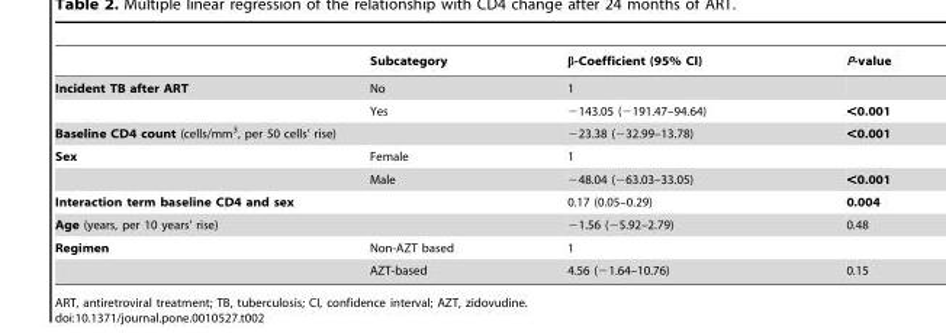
<table><thead><tr><td></td><td>Subcategory</td><td>β-Coefficient (95% CI)</td><td>P-value</td></tr></thead><tbody><tr><td rowspan="2">Incident TB after ART</td><td>No</td><td>1</td><td></td></tr><tr><td>Yes</td><td>−143.05 (−191.47–94.64)</td><td>&lt;0.001</td></tr><tr><td>Baseline CD4 count (cells/mm<sup>3</sup>, per 50 cells’ rise)</td><td></td><td>−23.38 (−32.99–13.78)</td><td>&lt;0.001</td></tr><tr><td rowspan="2">Sex</td><td>Female</td><td>1</td><td></td></tr><tr><td>Male</td><td>−48.04 (−63.03–33.05)</td><td>&lt;0.001</td></tr><tr><td>Interaction term baseline CD4 and sex</td><td></td><td>0.17 (0.05–0.29)</td><td>0.004</td></tr><tr><td>Age (years, per 10 years’ rise)</td><td></td><td>−1.56 (−5.92–2.79)</td><td>0.48</td></tr><tr><td rowspan="2">Regimen</td><td>Non-AZT based</td><td>1</td><td></td></tr><tr><td>AZT-based</td><td>4.56 (−1.64–10.76)</td><td>0.15</td></tr></tbody></table>